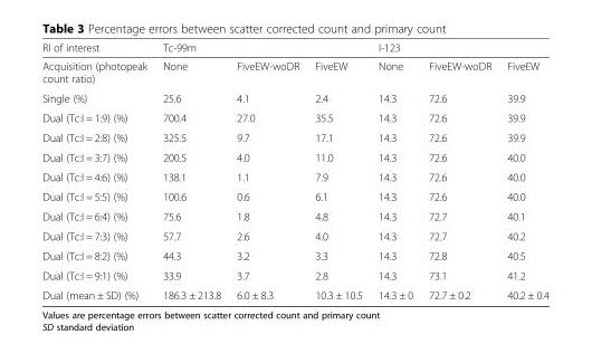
<table><thead><tr><td>RI of interest</td><td>Tc-99m</td><td></td><td></td><td>I-123</td><td></td><td></td></tr></thead><tbody><tr><td>Acquisition (photopeak count ratio)</td><td>None</td><td>FiveEW-woDR</td><td>FiveEW</td><td>None</td><td>FiveEW-woDR</td><td>FiveEW</td></tr><tr><td>Single (%)</td><td>25.6</td><td>4.1</td><td>2.4</td><td>14.3</td><td>72.6</td><td>39.9</td></tr><tr><td>Dual (Tc:I = 1:9) (%)</td><td>700.4</td><td>27.0</td><td>35.5</td><td>14.3</td><td>72.6</td><td>39.9</td></tr><tr><td>Dual (Tc:I = 2:8) (%)</td><td>325.5</td><td>9.7</td><td>17.1</td><td>14.3</td><td>72.6</td><td>39.9</td></tr><tr><td>Dual (Tc:I = 3:7) (%)</td><td>200.5</td><td>4.0</td><td>11.0</td><td>14.3</td><td>72.6</td><td>40.0</td></tr><tr><td>Dual (Tc:I = 4:6) (%)</td><td>138.1</td><td>1.1</td><td>7.9</td><td>14.3</td><td>72.6</td><td>40.0</td></tr><tr><td>Dual (Tc:I = 5:5) (%)</td><td>100.6</td><td>0.6</td><td>6.1</td><td>14.3</td><td>72.6</td><td>40.0</td></tr><tr><td>Dual (Tc:I = 6:4) (%)</td><td>75.6</td><td>1.8</td><td>4.8</td><td>14.3</td><td>72.7</td><td>40.1</td></tr><tr><td>Dual (Tc:I = 7:3) (%)</td><td>57.7</td><td>2.6</td><td>4.0</td><td>14.3</td><td>72.7</td><td>40.2</td></tr><tr><td>Dual (Tc:I = 8:2) (%)</td><td>44.3</td><td>3.2</td><td>3.3</td><td>14.3</td><td>72.8</td><td>40.5</td></tr><tr><td>Dual (Tc:I = 9:1) (%)</td><td>33.9</td><td>3.7</td><td>2.8</td><td>14.3</td><td>73.1</td><td>41.2</td></tr><tr><td>Dual (mean ± SD) (%)</td><td>186.3 ± 213.8</td><td>6.0 ± 8.3</td><td>10.3 ± 10.5</td><td>14.3 ± 0</td><td>72.7 ± 0.2</td><td>40.2 ± 0.4</td></tr></tbody></table>